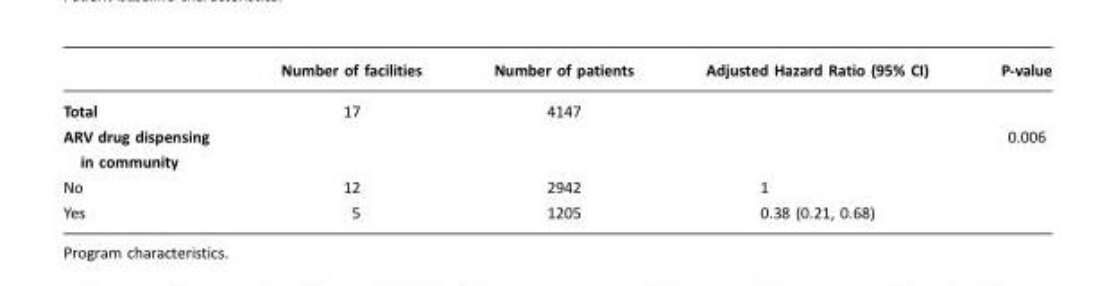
<table><thead><tr><td></td><td>Number of facilities</td><td>Number of patients</td><td>Adjusted Hazard Ratio (95% CI)</td><td>P-value</td></tr></thead><tbody><tr><td>Total</td><td>17</td><td>4147</td><td></td><td></td></tr><tr><td>ARV drug dispensing in community</td><td></td><td></td><td></td><td>0.006</td></tr><tr><td>No</td><td>12</td><td>2942</td><td>1</td><td></td></tr><tr><td>Yes</td><td>5</td><td>1205</td><td>0.38 (0.21, 0.68)</td><td></td></tr></tbody></table>